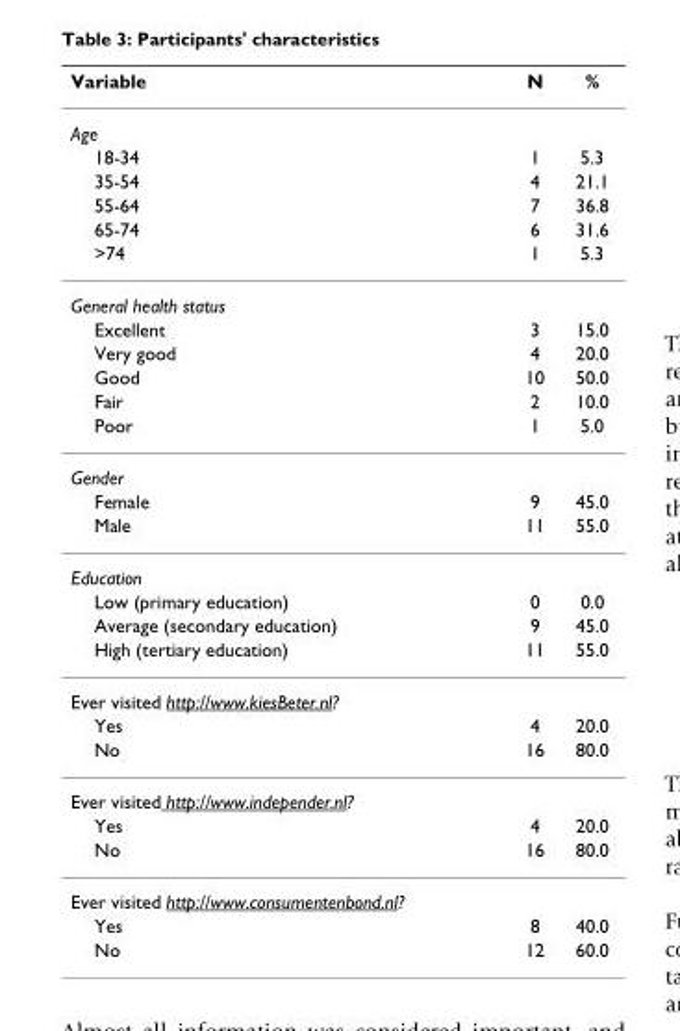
<table><thead><tr><td>Variable</td><td>N</td><td>%</td></tr></thead><tbody><tr><td colspan="3">Age</td></tr><tr><td>18-34</td><td>1</td><td>5.3</td></tr><tr><td>35-54</td><td>4</td><td>21.1</td></tr><tr><td>55-64</td><td>7</td><td>36.8</td></tr><tr><td>65-74</td><td>6</td><td>31.6</td></tr><tr><td>&gt;74</td><td>1</td><td>5.3</td></tr><tr><td colspan="3">General health status</td></tr><tr><td>Excellent</td><td>3</td><td>15.0</td></tr><tr><td>Very good</td><td>4</td><td>20.0</td></tr><tr><td>Good</td><td>10</td><td>50.0</td></tr><tr><td>Fair</td><td>2</td><td>10.0</td></tr><tr><td>Poor</td><td>1</td><td>5.0</td></tr><tr><td colspan="3">Gender</td></tr><tr><td>Female</td><td>9</td><td>45.0</td></tr><tr><td>Male</td><td>11</td><td>55.0</td></tr><tr><td colspan="3">Education</td></tr><tr><td>Low (primary education)</td><td>0</td><td>0.0</td></tr><tr><td>Average (secondary education)</td><td>9</td><td>45.0</td></tr><tr><td>High (tertiary education)</td><td>11</td><td>55.0</td></tr><tr><td colspan="3">Ever visited http://www.kiesBeter.nl?</td></tr><tr><td>Yes</td><td>4</td><td>20.0</td></tr><tr><td>No</td><td>16</td><td>80.0</td></tr><tr><td colspan="3">Ever visited http://www.independer.nl?</td></tr><tr><td>Yes</td><td>4</td><td>20.0</td></tr><tr><td>No</td><td>16</td><td>80.0</td></tr><tr><td colspan="3">Ever visited http://www.consumentenbond.nl?</td></tr><tr><td>Yes</td><td>8</td><td>40.0</td></tr><tr><td>No</td><td>12</td><td>60.0</td></tr></tbody></table>